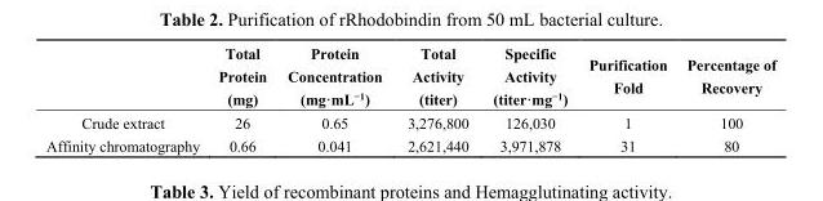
<table><thead><tr><td></td><td>Total Protein (mg)</td><td>Protein Concentration (mg·mL<sup>−1</sup>)</td><td>Total Activity (titer)</td><td>Specific Activity (titer·mg<sup>−1</sup>)</td><td>Purification Fold</td><td>Percentage of Recovery</td></tr></thead><tbody><tr><td>Crude extract</td><td>26</td><td>0.65</td><td>3,276,800</td><td>126,030</td><td>1</td><td>100</td></tr><tr><td>Affinity chromatography</td><td>0.66</td><td>0.041</td><td>2,621,440</td><td>3,971,878</td><td>31</td><td>80</td></tr></tbody></table>